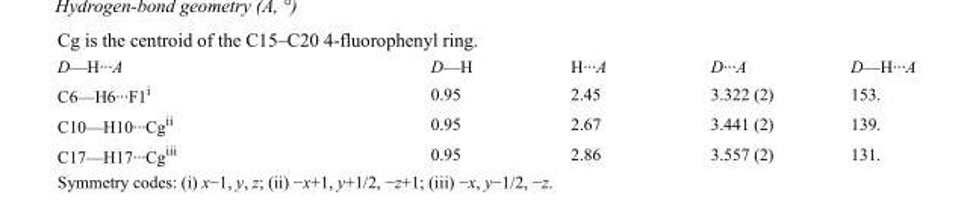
<table><tbody><tr><td>D—H···A</td><td>D—H</td><td>H···A</td><td>D···A</td><td>D—H···A</td></tr><tr><td>C6—H6···F1<sup>i</sup></td><td>0.95</td><td>2.45</td><td>3.322 (2)</td><td>153.</td></tr><tr><td>C10—H10···Cg<sup>ii</sup></td><td>0.95</td><td>2.67</td><td>3.441 (2)</td><td>139.</td></tr><tr><td>C17—H17···Cg<sup>iii</sup></td><td>0.95</td><td>2.86</td><td>3.557 (2)</td><td>131.</td></tr></tbody></table>